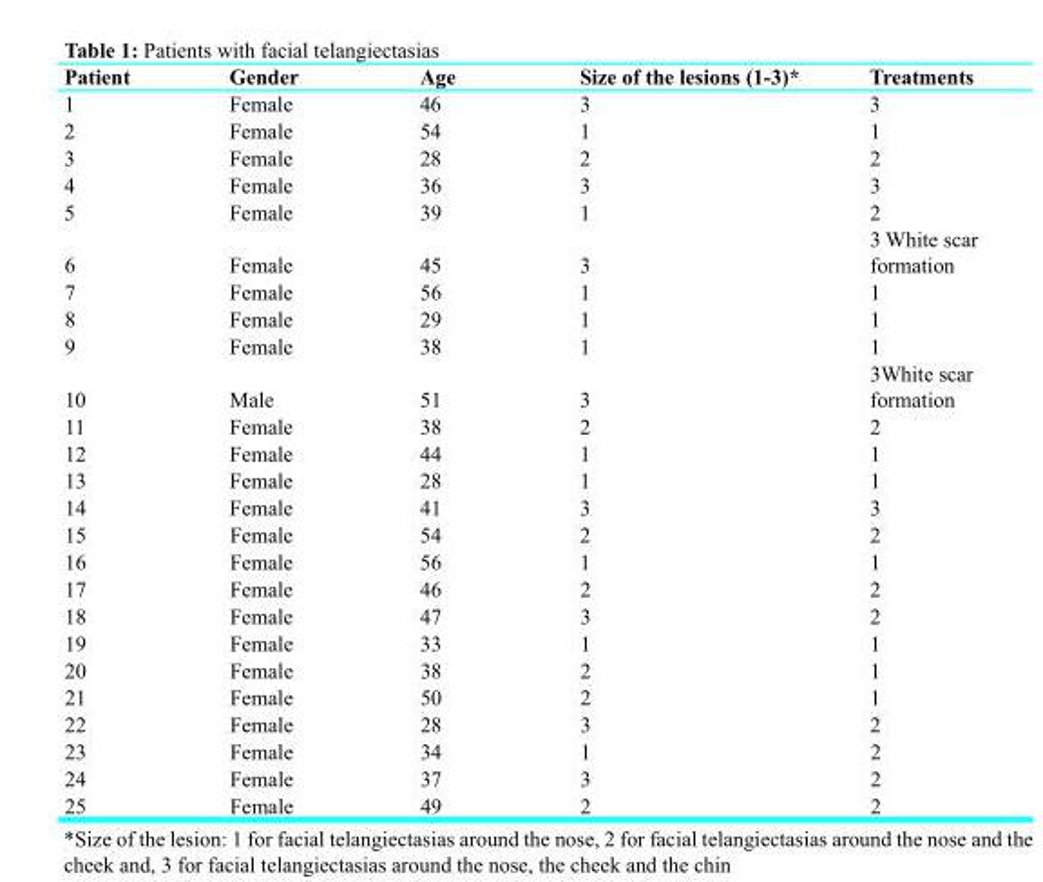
<table><thead><tr><td>Patient</td><td>Gender</td><td>Age</td><td>Size of the lesions (1-3)*</td><td>Treatments</td></tr></thead><tbody><tr><td>1</td><td>Female</td><td>46</td><td>3</td><td>3</td></tr><tr><td>2</td><td>Female</td><td>54</td><td>1</td><td>1</td></tr><tr><td>3</td><td>Female</td><td>28</td><td>2</td><td>2</td></tr><tr><td>4</td><td>Female</td><td>36</td><td>3</td><td>3</td></tr><tr><td>5</td><td>Female</td><td>39</td><td>1</td><td>2</td></tr><tr><td>6</td><td>Female</td><td>45</td><td>3</td><td>3 White scar formation</td></tr><tr><td>7</td><td>Female</td><td>56</td><td>1</td><td>1</td></tr><tr><td>8</td><td>Female</td><td>29</td><td>1</td><td>1</td></tr><tr><td>9</td><td>Female</td><td>38</td><td>1</td><td>1</td></tr><tr><td>10</td><td>Male</td><td>51</td><td>3</td><td>3White scar formation</td></tr><tr><td>11</td><td>Female</td><td>38</td><td>2</td><td>2</td></tr><tr><td>12</td><td>Female</td><td>44</td><td>1</td><td>1</td></tr><tr><td>13</td><td>Female</td><td>28</td><td>1</td><td>1</td></tr><tr><td>14</td><td>Female</td><td>41</td><td>3</td><td>3</td></tr><tr><td>15</td><td>Female</td><td>54</td><td>2</td><td>2</td></tr><tr><td>16</td><td>Female</td><td>56</td><td>1</td><td>1</td></tr><tr><td>17</td><td>Female</td><td>46</td><td>2</td><td>2</td></tr><tr><td>18</td><td>Female</td><td>47</td><td>3</td><td>2</td></tr><tr><td>19</td><td>Female</td><td>33</td><td>1</td><td>1</td></tr><tr><td>20</td><td>Female</td><td>38</td><td>2</td><td>1</td></tr><tr><td>21</td><td>Female</td><td>50</td><td>2</td><td>1</td></tr><tr><td>22</td><td>Female</td><td>28</td><td>3</td><td>2</td></tr><tr><td>23</td><td>Female</td><td>34</td><td>1</td><td>2</td></tr><tr><td>24</td><td>Female</td><td>37</td><td>3</td><td>2</td></tr><tr><td>25</td><td>Female</td><td>49</td><td>2</td><td>2</td></tr></tbody></table>